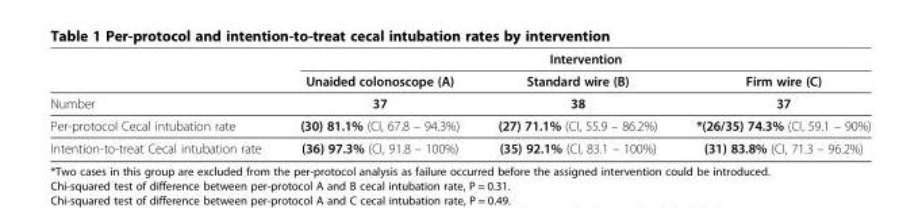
<table><thead><tr><td rowspan="2"></td><td colspan="3">Intervention</td></tr><tr><td>Unaided colonoscope (A)</td><td>Standard wire (B)</td><td>Firm wire (C)</td></tr></thead><tbody><tr><td>Number</td><td>37</td><td>38</td><td>37</td></tr><tr><td>Per-protocol Cecal intubation rate</td><td>(30) 81.1% (CI, 67.8 – 94.3%)</td><td>(27) 71.1% (CI, 55.9 – 86.2%)</td><td>*(26/35) 74.3% (CI, 59.1 – 90%)</td></tr><tr><td>Intention-to-treat Cecal intubation rate</td><td>(36) 97.3% (CI, 91.8 – 100%)</td><td>(35) 92.1% (CI, 83.1 – 100%)</td><td>(31) 83.8% (CI, 71.3 – 96.2%)</td></tr></tbody></table>